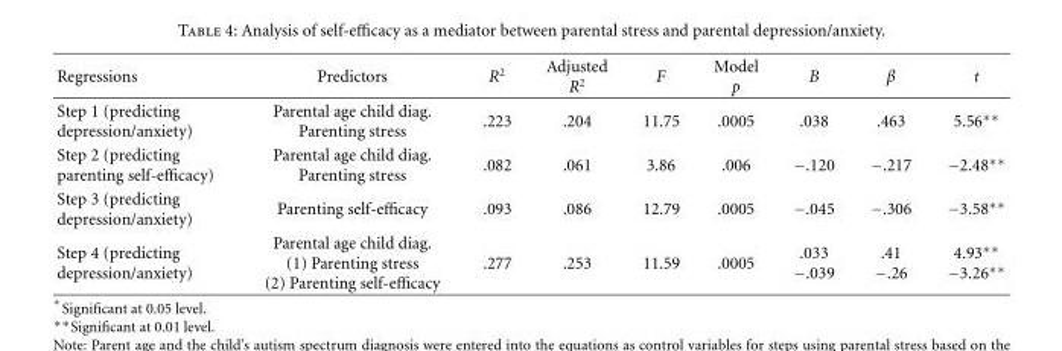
<table><thead><tr><td>Regressions</td><td>Predictors</td><td>R<sup>2</sup></td><td>Adjusted R<sup>2</sup></td><td>F</td><td>Model p</td><td>B</td><td>β</td><td>t</td></tr></thead><tbody><tr><td>Step 1 (predicting depression/anxiety)</td><td>Parental age child diag. Parenting stress</td><td>.223</td><td>.204</td><td>11.75</td><td>.0005</td><td>.038</td><td>.463</td><td>5.56∗∗</td></tr><tr><td>Step 2 (predicting parenting self-efficacy)</td><td>Parental age child diag. Parenting stress</td><td>.082</td><td>.061</td><td>3.86</td><td>.006</td><td>−.120</td><td>−.217</td><td>−2.48∗∗</td></tr><tr><td>Step 3 (predicting depression/anxiety)</td><td>Parenting self-efficacy</td><td>.093</td><td>.086</td><td>12.79</td><td>.0005</td><td>−.045</td><td>−.306</td><td>−3.58∗∗</td></tr><tr><td>Step 4 (predicting depression/anxiety)</td><td>Parental age child diag. (1) Parenting stress (2) Parenting self-efficacy</td><td>.277</td><td>.253</td><td>11.59</td><td>.0005</td><td>.033 −.039</td><td>.41 −.26</td><td>4.93∗∗ −3.26∗∗</td></tr></tbody></table>